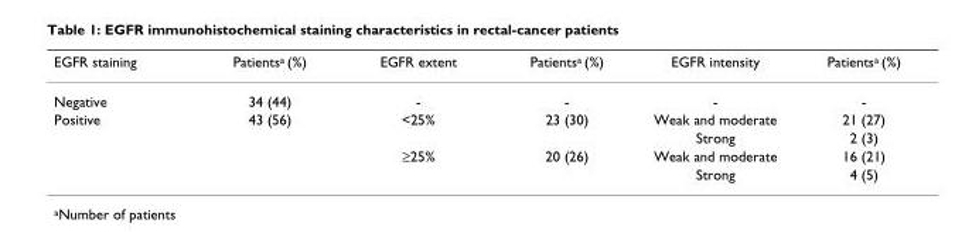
<table><thead><tr><td>EGFR staining</td><td>Patientsa (%)</td><td>EGFR extent</td><td>Patientsa (%)</td><td>EGFR intensity</td><td>Patientsa (%)</td></tr></thead><tbody><tr><td>Negative</td><td>34 (44)</td><td>-</td><td>-</td><td>-</td><td>-</td></tr><tr><td rowspan="4">Positive</td><td>43 (56)</td><td>&lt;25%</td><td>23 (30)</td><td>Weak and moderate</td><td>21 (27)</td></tr><tr><td></td><td></td><td></td><td>Strong</td><td>2 (3)</td></tr><tr><td></td><td>≥25%</td><td>20 (26)</td><td>Weak and moderate</td><td>16 (21)</td></tr><tr><td></td><td></td><td></td><td>Strong</td><td>4 (5)</td></tr></tbody></table>